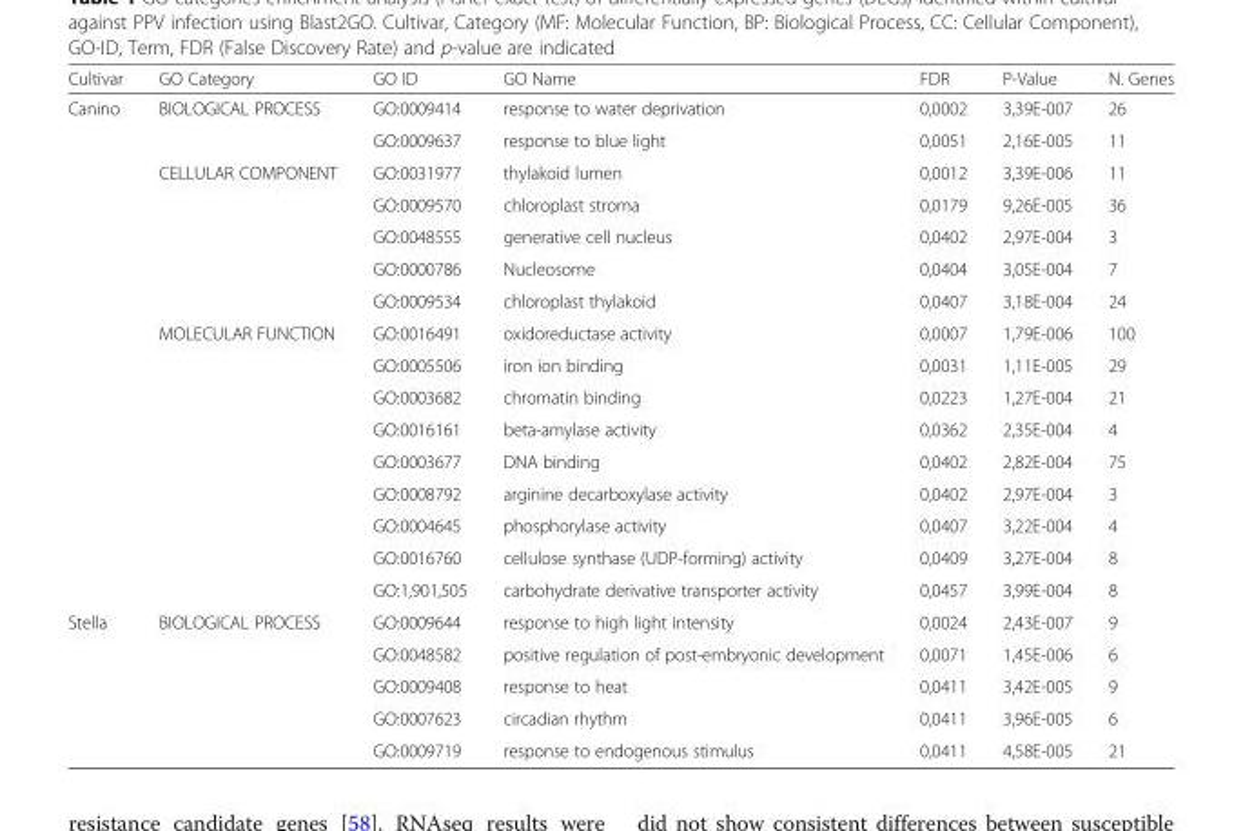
<table><thead><tr><td>Cultivar</td><td>GO Category</td><td>GO ID</td><td>GO Name</td><td>FDR</td><td>P-Value</td><td>N. Genes</td></tr></thead><tbody><tr><td rowspan="16">Canino</td><td rowspan="2">BIOLOGICAL PROCESS</td><td>GO:0009414</td><td>response to water deprivation</td><td>0,0002</td><td>3,39E-007</td><td>26</td></tr><tr><td>GO:0009637</td><td>response to blue light</td><td>0,0051</td><td>2,16E-005</td><td>11</td></tr><tr><td rowspan="5">CELLULAR COMPONENT</td><td>GO:0031977</td><td>thylakoid lumen</td><td>0,0012</td><td>3,39E-006</td><td>11</td></tr><tr><td>GO:0009570</td><td>chloroplast stroma</td><td>0,0179</td><td>9,26E-005</td><td>36</td></tr><tr><td>GO:0048555</td><td>generative cell nucleus</td><td>0,0402</td><td>2,97E-004</td><td>3</td></tr><tr><td>GO:0000786</td><td>Nucleosome</td><td>0,0404</td><td>3,05E-004</td><td>7</td></tr><tr><td>GO:0009534</td><td>chloroplast thylakoid</td><td>0,0407</td><td>3,18E-004</td><td>24</td></tr><tr><td rowspan="9">MOLECULAR FUNCTION</td><td>GO:0016491</td><td>oxidoreductase activity</td><td>0,0007</td><td>1,79E-006</td><td>100</td></tr><tr><td>GO:0005506</td><td>iron ion binding</td><td>0,0031</td><td>1,11E-005</td><td>29</td></tr><tr><td>GO:0003682</td><td>chromatin binding</td><td>0,0223</td><td>1,27E-004</td><td>21</td></tr><tr><td>GO:0016161</td><td>beta-amylase activity</td><td>0,0362</td><td>2,35E-004</td><td>4</td></tr><tr><td>GO:0003677</td><td>DNA binding</td><td>0,0402</td><td>2,82E-004</td><td>75</td></tr><tr><td>GO:0008792</td><td>arginine decarboxylase activity</td><td>0,0402</td><td>2,97E-004</td><td>3</td></tr><tr><td>GO:0004645</td><td>phosphorylase activity</td><td>0,0407</td><td>3,22E-004</td><td>4</td></tr><tr><td>GO:0016760</td><td>cellulose synthase (UDP-forming) activity</td><td>0,0409</td><td>3,27E-004</td><td>8</td></tr><tr><td>GO:1,901,505</td><td>carbohydrate derivative transporter activity</td><td>0,0457</td><td>3,99E-004</td><td>8</td></tr><tr><td rowspan="5">Stella</td><td rowspan="5">BIOLOGICAL PROCESS</td><td>GO:0009644</td><td>response to high light intensity</td><td>0,0024</td><td>2,43E-007</td><td>9</td></tr><tr><td>GO:0048582</td><td>positive regulation of post-embryonic development</td><td>0,0071</td><td>1,45E-006</td><td>6</td></tr><tr><td>GO:0009408</td><td>response to heat</td><td>0,0411</td><td>3,42E-005</td><td>9</td></tr><tr><td>GO:0007623</td><td>circadian rhythm</td><td>0,0411</td><td>3,96E-005</td><td>6</td></tr><tr><td>GO:0009719</td><td>response to endogenous stimulus</td><td>0,0411</td><td>4,58E-005</td><td>21</td></tr></tbody></table>